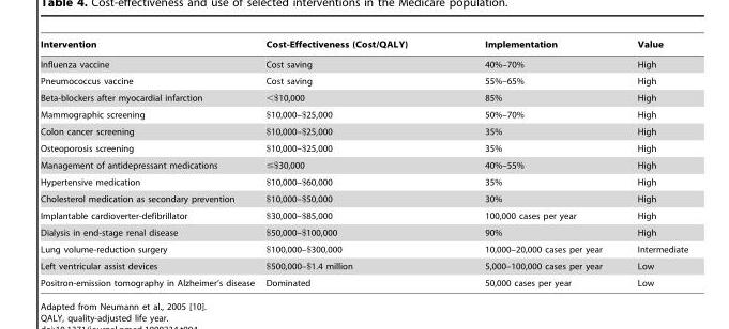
<table><thead><tr><td>Intervention</td><td>Cost-Effectiveness (Cost/QALY)</td><td>Implementation</td><td>Value</td></tr></thead><tbody><tr><td>Influenza vaccine</td><td>Cost saving</td><td>40%–70%</td><td>High</td></tr><tr><td>Pneumococcus vaccine</td><td>Cost saving</td><td>55%–65%</td><td>High</td></tr><tr><td>Beta-blockers after myocardial infarction</td><td>&lt;$10,000</td><td>85%</td><td>High</td></tr><tr><td>Mammographic screening</td><td>$10,000–$25,000</td><td>50%–70%</td><td>High</td></tr><tr><td>Colon cancer screening</td><td>$10,000–$25,000</td><td>35%</td><td>High</td></tr><tr><td>Osteoporosis screening</td><td>$10,000–$25,000</td><td>35%</td><td>High</td></tr><tr><td>Management of antidepressant medications</td><td>≤$30,000</td><td>40%–55%</td><td>High</td></tr><tr><td>Hypertensive medication</td><td>$10,000–$60,000</td><td>35%</td><td>High</td></tr><tr><td>Cholesterol medication as secondary prevention</td><td>$10,000–$50,000</td><td>30%</td><td>High</td></tr><tr><td>Implantable cardioverter-defibrillator</td><td>$30,000–$85,000</td><td>100,000 cases per year</td><td>High</td></tr><tr><td>Dialysis in end-stage renal disease</td><td>$50,000–$100,000</td><td>90%</td><td>High</td></tr><tr><td>Lung volume-reduction surgery</td><td>$100,000–$300,000</td><td>10,000–20,000 cases per year</td><td>Intermediate</td></tr><tr><td>Left ventricular assist devices</td><td>$500,000–$1.4 million</td><td>5,000–100,000 cases per year</td><td>Low</td></tr><tr><td>Positron-emission tomography in Alzheimer’s disease</td><td>Dominated</td><td>50,000 cases per year</td><td>Low</td></tr></tbody></table>